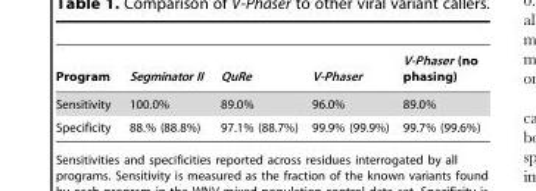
<table><thead><tr><td>Program</td><td>Segminator II</td><td>QuRe</td><td>V-Phaser</td><td>V-Phaser (no phasing)</td></tr></thead><tbody><tr><td>Sensitivity</td><td>100.0%</td><td>89.0%</td><td>96.0%</td><td>89.0%</td></tr><tr><td>Specificity</td><td>88.% (88.8%)</td><td>97.1% (88.7%)</td><td>99.9% (99.9%)</td><td>99.7% (99.6%)</td></tr></tbody></table>